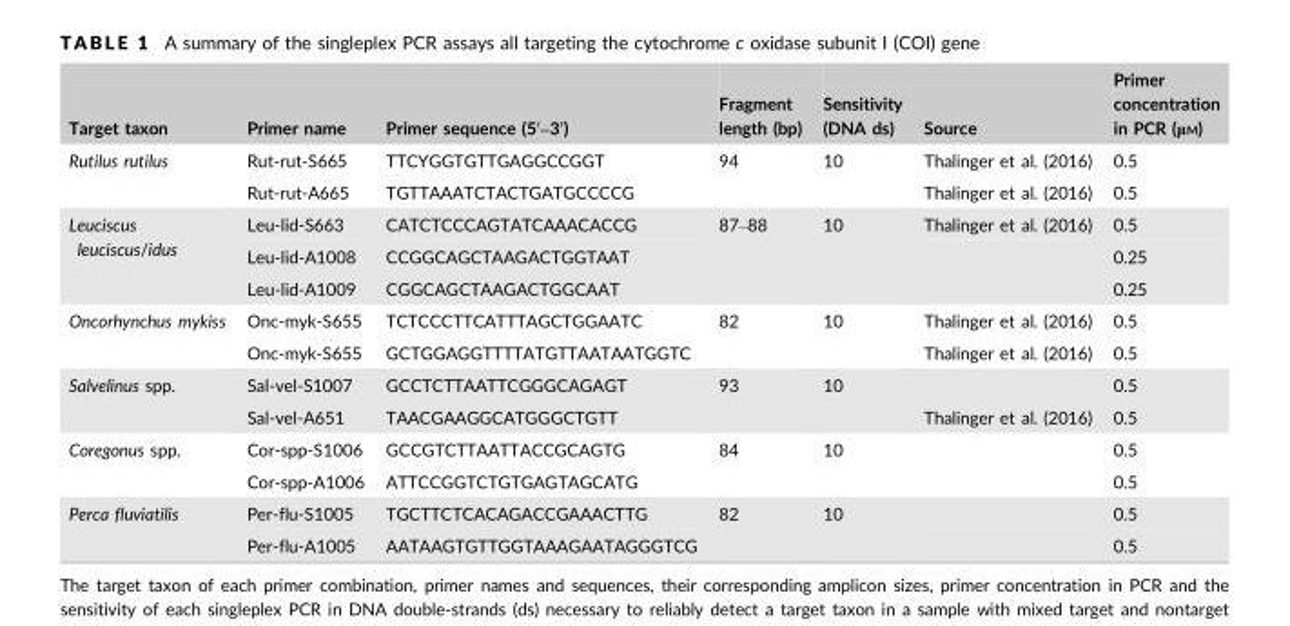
<table><thead><tr><td>Target taxon</td><td>Primer name</td><td>Primer sequence (5′–3′)</td><td>Fragment length (bp)</td><td>Sensitivity (DNA ds)</td><td>Source</td><td>Primer concentration in PCR (μM)</td></tr></thead><tbody><tr><td rowspan="2">Rutilus rutilus</td><td>Rut-rut-S665</td><td>TTCYGGTGTTGAGGCCGGT</td><td rowspan="2">94</td><td rowspan="2">10</td><td>Thalinger et al. (2016)</td><td>0.5</td></tr><tr><td>Rut-rut-A665</td><td>TGTTAAATCTACTGATGCCCCG</td><td>Thalinger et al. (2016)</td><td>0.5</td></tr><tr><td rowspan="3">Leuciscus leuciscus/idus</td><td>Leu-lid-S663</td><td>CATCTCCCAGTATCAAACACCG</td><td rowspan="3">87–88</td><td rowspan="3">10</td><td>Thalinger et al. (2016)</td><td>0.5</td></tr><tr><td>Leu-lid-A1008</td><td>CCGGCAGCTAAGACTGGTAAT</td><td></td><td>0.25</td></tr><tr><td>Leu-lid-A1009</td><td>CGGCAGCTAAGACTGGCAAT</td><td></td><td>0.25</td></tr><tr><td rowspan="2">Oncorhynchus mykiss</td><td>Onc-myk-S655</td><td>TCTCCCTTCATTTAGCTGGAATC</td><td rowspan="2">82</td><td rowspan="2">10</td><td>Thalinger et al. (2016)</td><td>0.5</td></tr><tr><td>Onc-myk-S655</td><td>GCTGGAGGTTTTATGTTAATAATGGTC</td><td>Thalinger et al. (2016)</td><td>0.5</td></tr><tr><td rowspan="2">Salvelinus spp.</td><td>Sal-vel-S1007</td><td>GCCTCTTAATTCGGGCAGAGT</td><td rowspan="2">93</td><td rowspan="2">10</td><td></td><td>0.5</td></tr><tr><td>Sal-vel-A651</td><td>TAACGAAGGCATGGGCTGTT</td><td>Thalinger et al. (2016)</td><td>0.5</td></tr><tr><td rowspan="2">Coregonus spp.</td><td>Cor-spp-S1006</td><td>GCCGTCTTAATTACCGCAGTG</td><td rowspan="2">84</td><td rowspan="2">10</td><td></td><td>0.5</td></tr><tr><td>Cor-spp-A1006</td><td>ATTCCGGTCTGTGAGTAGCATG</td><td></td><td>0.5</td></tr><tr><td rowspan="2">Perca fluviatilis</td><td>Per-flu-S1005</td><td>TGCTTCTCACAGACCGAAACTTG</td><td rowspan="2">82</td><td rowspan="2">10</td><td></td><td>0.5</td></tr><tr><td>Per-flu-A1005</td><td>AATAAGTGTTGGTAAAGAATAGGGTCG</td><td></td><td>0.5</td></tr></tbody></table>